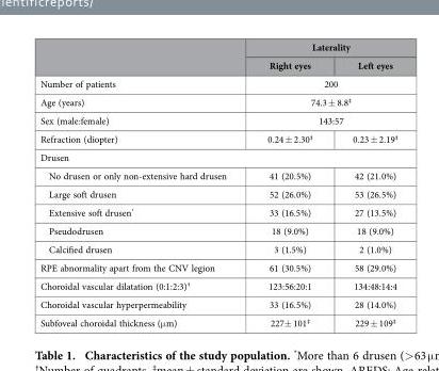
<table><thead><tr><td rowspan="2"></td><td colspan="2">Laterality</td></tr><tr><td>Right eyes</td><td>Left eyes</td></tr></thead><tbody><tr><td>Number of patients</td><td colspan="2">200</td></tr><tr><td>Age (years)</td><td colspan="2">74.3 ± 8.8‡</td></tr><tr><td>Sex (male:female)</td><td colspan="2">143:57</td></tr><tr><td>Refraction (diopter)</td><td>0.24 ± 2.30‡</td><td>0.23 ± 2.19‡</td></tr><tr><td colspan="3">Drusen</td></tr><tr><td>No drusen or only non-extensive hard drusen</td><td>41 (20.5%)</td><td>42 (21.0%)</td></tr><tr><td>Large soft drusen</td><td>52 (26.0%)</td><td>53 (26.5%)</td></tr><tr><td>Extensive soft drusen*</td><td>33 (16.5%)</td><td>27 (13.5%)</td></tr><tr><td>Pseudodrusen</td><td>18 (9.0%)</td><td>18 (9.0%)</td></tr><tr><td>Calcified drusen</td><td>3 (1.5%)</td><td>2 (1.0%)</td></tr><tr><td>RPE abnormality apart from the CNV legion</td><td>61 (30.5%)</td><td>58 (29.0%)</td></tr><tr><td>Choroidal vascular dilatation (0:1:2:3)†</td><td>123:56:20:1</td><td>134:48:14:4</td></tr><tr><td>Choroidal vascular hyperpermeability</td><td>33 (16.5%)</td><td>28 (14.0%)</td></tr><tr><td>Subfoveal choroidal thickness (μ m)</td><td>227± 101‡</td><td>229 ± 109‡</td></tr></tbody></table>